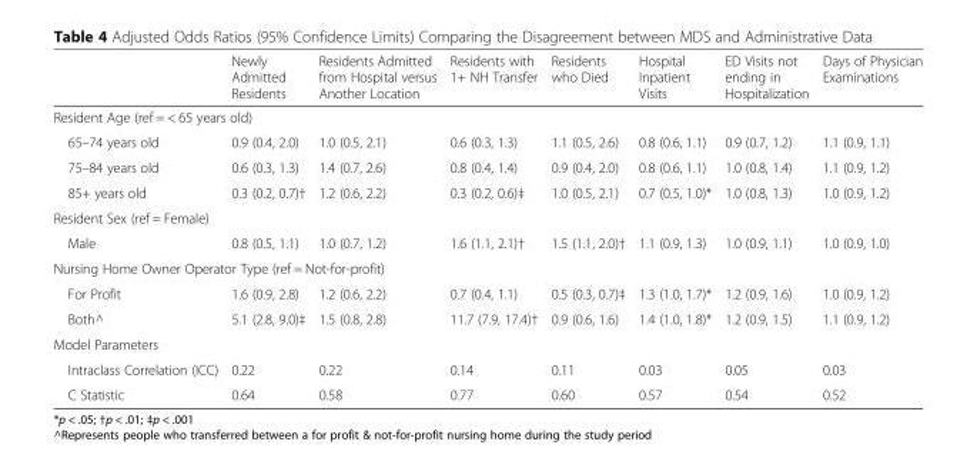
<table><thead><tr><td></td><td>Newly Admitted Residents</td><td>Residents Admitted from Hospital versus Another Location</td><td>Residents with 1+ NH Transfer</td><td>Residents who Died</td><td>Hospital Inpatient Visits</td><td>ED Visits not ending in Hospitalization</td><td>Days of Physician Examinations</td></tr></thead><tbody><tr><td colspan="8">Resident Age (ref = &lt; 65 years old)</td></tr><tr><td>65–74 years old</td><td>0.9 (0.4, 2.0)</td><td>1.0 (0.5, 2.1)</td><td>0.6 (0.3, 1.3)</td><td>1.1 (0.5, 2.6)</td><td>0.8 (0.6, 1.1)</td><td>0.9 (0.7, 1.2)</td><td>1.1 (0.9, 1.1)</td></tr><tr><td>75–84 years old</td><td>0.6 (0.3, 1.3)</td><td>1.4 (0.7, 2.6)</td><td>0.8 (0.4, 1.4)</td><td>0.9 (0.4, 2.0)</td><td>0.8 (0.6, 1.1)</td><td>1.0 (0.8, 1.4)</td><td>1.1 (0.9, 1.2)</td></tr><tr><td>85+ years old</td><td>0.3 (0.2, 0.7)†</td><td>1.2 (0.6, 2.2)</td><td>0.3 (0.2, 0.6)‡</td><td>1.0 (0.5, 2.1)</td><td>0.7 (0.5, 1.0)*</td><td>1.0 (0.8, 1.3)</td><td>1.0 (0.9, 1.2)</td></tr><tr><td colspan="8">Resident Sex (ref = Female)</td></tr><tr><td>Male</td><td>0.8 (0.5, 1.1)</td><td>1.0 (0.7, 1.2)</td><td>1.6 (1.1, 2.1)†</td><td>1.5 (1.1, 2.0)†</td><td>1.1 (0.9, 1.3)</td><td>1.0 (0.9, 1.1)</td><td>1.0 (0.9, 1.0)</td></tr><tr><td colspan="8">Nursing Home Owner Operator Type (ref = Not-for-profit)</td></tr><tr><td>For Profit</td><td>1.6 (0.9, 2.8)</td><td>1.2 (0.6, 2.2)</td><td>0.7 (0.4, 1.1)</td><td>0.5 (0.3, 0.7)‡</td><td>1.3 (1.0, 1.7)*</td><td>1.2 (0.9, 1.6)</td><td>1.0 (0.9, 1.2)</td></tr><tr><td>Both^</td><td>5.1 (2.8, 9.0)‡</td><td>1.5 (0.8, 2.8)</td><td>11.7 (7.9, 17.4)†</td><td>0.9 (0.6, 1.6)</td><td>1.4 (1.0, 1.8)*</td><td>1.2 (0.9, 1.5)</td><td>1.1 (0.9, 1.2)</td></tr><tr><td colspan="8">Model Parameters</td></tr><tr><td>Intraclass Correlation (ICC)</td><td>0.22</td><td>0.22</td><td>0.14</td><td>0.11</td><td>0.03</td><td>0.05</td><td>0.03</td></tr><tr><td>C Statistic</td><td>0.64</td><td>0.58</td><td>0.77</td><td>0.60</td><td>0.57</td><td>0.54</td><td>0.52</td></tr></tbody></table>